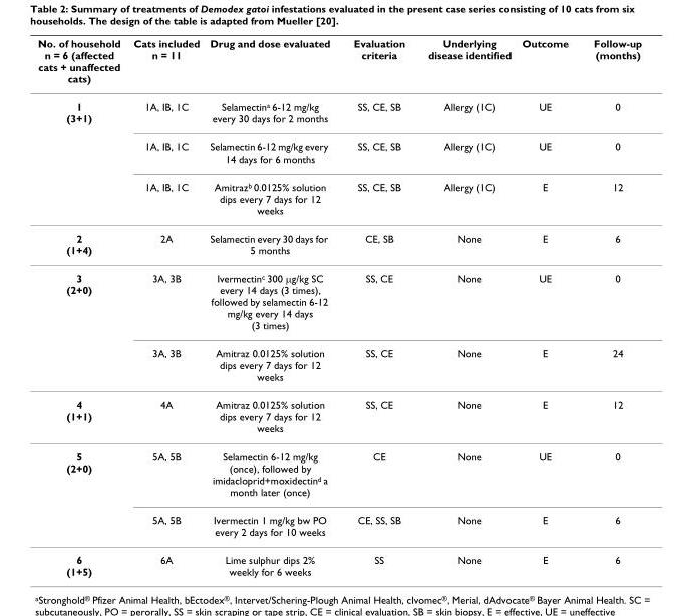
<table><thead><tr><td>No. of household n = 6 (affected cats + unaffected cats)</td><td>Cats included n = 11</td><td>Drug and dose evaluated</td><td>Evaluation criteria</td><td>Underlying disease identified</td><td>Outcome</td><td>Follow-up (months)</td></tr></thead><tbody><tr><td rowspan="3">1 (3+1)</td><td>1A, IB, 1C</td><td>Selamectin<sup>a</sup> 6-12 mg/kg every 30 days for 2 months</td><td>SS, CE, SB</td><td>Allergy (1C)</td><td>UE</td><td>0</td></tr><tr><td>1A, IB, 1C</td><td>Selamectin 6-12 mg/kg every 14 days for 6 months</td><td>SS, CE, SB</td><td>Allergy (1C)</td><td>UE</td><td>0</td></tr><tr><td>1A, IB, 1C</td><td>Amitraz<sup>b</sup> 0.0125% solution dips every 7 days for 12 weeks</td><td>SS, CE, SB</td><td>Allergy (1C)</td><td>E</td><td>12</td></tr><tr><td>2 (1+4)</td><td>2A</td><td>Selamectin every 30 days for 5 months</td><td>CE, SB</td><td>None</td><td>E</td><td>6</td></tr><tr><td rowspan="2">3 (2+0)</td><td>3A, 3B</td><td>Ivermectin<sup>c</sup> 300 μg/kg SC every 14 days (3 times), followed by selamectin 6-12 mg/kg every 14 days (3 times)</td><td>SS, CE</td><td>None</td><td>UE</td><td>0</td></tr><tr><td>3A, 3B</td><td>Amitraz 0.0125% solution dips every 7 days for 12 weeks</td><td>SS, CE</td><td>None</td><td>E</td><td>24</td></tr><tr><td>4 (1+1)</td><td>4A</td><td>Amitraz 0.0125% solution dips every 7 days for 12 weeks</td><td>SS, CE</td><td>None</td><td>E</td><td>12</td></tr><tr><td rowspan="2">5 (2+0)</td><td>5A, 5B</td><td>Selamectin 6-12 mg/kg (once), followed by imidacloprid+moxidectin<sup>d</sup> a month later (once)</td><td>CE</td><td>None</td><td>UE</td><td>0</td></tr><tr><td>5A, 5B</td><td>Ivermectin 1 mg/kg bw PO every 2 days for 10 weeks</td><td>CE, SS, SB</td><td>None</td><td>E</td><td>6</td></tr><tr><td>6 (1+5)</td><td>6A</td><td>Lime sulphur dips 2% weekly for 6 weeks</td><td>SS</td><td>None</td><td>E</td><td>6</td></tr></tbody></table>